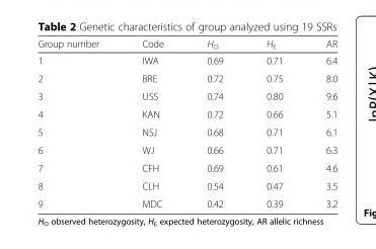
<table><thead><tr><td>Group number</td><td>Code</td><td>H<sub>O</sub></td><td>H<sub>E</sub></td><td>AR</td></tr></thead><tbody><tr><td>1</td><td>IWA</td><td>0.69</td><td>0.71</td><td>6.4</td></tr><tr><td>2</td><td>BRE</td><td>0.72</td><td>0.75</td><td>8.0</td></tr><tr><td>3</td><td>USS</td><td>0.74</td><td>0.80</td><td>9.6</td></tr><tr><td>4</td><td>KAN</td><td>0.72</td><td>0.66</td><td>5.1</td></tr><tr><td>5</td><td>NSJ</td><td>0.68</td><td>0.71</td><td>6.1</td></tr><tr><td>6</td><td>WJ</td><td>0.66</td><td>0.71</td><td>6.3</td></tr><tr><td>7</td><td>CFH</td><td>0.69</td><td>0.61</td><td>4.6</td></tr><tr><td>8</td><td>CLH</td><td>0.54</td><td>0.47</td><td>3.5</td></tr><tr><td>9</td><td>MDC</td><td>0.42</td><td>0.39</td><td>3.2</td></tr></tbody></table>